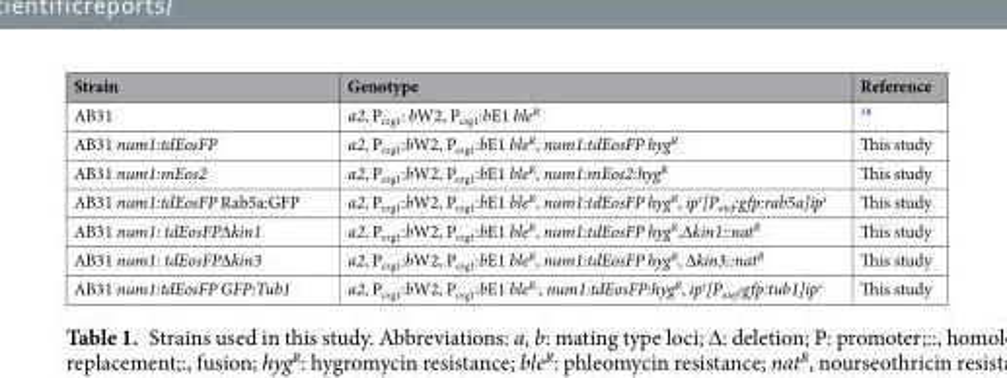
<table><thead><tr><td>Strain</td><td>Genotype</td><td>Reference</td></tr></thead><tbody><tr><td>AB31</td><td>a2, P<sub>crg1</sub>: bW2, P<sub>crg1</sub>:bE1 ble<sup>R</sup></td><td><sup>38</sup></td></tr><tr><td>AB31 num1:tdEosFP</td><td>a2, P<sub>crg1</sub>:bW2, P<sub>crg1</sub>:bE1 ble<sup>R</sup>, num1:tdEosFP hyg<sup>R</sup></td><td>This study</td></tr><tr><td>AB31 num1:mEos2</td><td>a2, P<sub>crg1</sub>:bW2, P<sub>crg1</sub>:bE1 ble<sup>R</sup>, num1:mEos2:hyg<sup>R</sup></td><td>This study</td></tr><tr><td>AB31 num1:tdEosFP Rab5a:GFP</td><td>a2, P<sub>crg1</sub>:bW2, P<sub>crg1</sub>:bE1 ble<sup>R</sup>, num1:tdEosFP hyg<sup>R</sup>, ip<sup>r</sup>[P<sub>otef</sub>:gfp:rab5a]ip<sup>s</sup></td><td>This study</td></tr><tr><td>AB31 num1: tdEosFP∆kin1</td><td>a2, P<sub>crg1</sub>:bW2, P<sub>crg1</sub>:bE1 ble<sup>R</sup>, num1:tdEosFP hyg<sup>R</sup>,∆kin1::nat<sup>R</sup></td><td>This study</td></tr><tr><td>AB31 num1: tdEosFP∆kin3</td><td>a2, P<sub>crg1</sub>:bW2, P<sub>crg1</sub>:bE1 ble<sup>R</sup>, num1:tdEosFP hyg<sup>R</sup>, ∆kin3::nat<sup>R</sup></td><td>This study</td></tr><tr><td>AB31 num1:tdEosFP GFP:Tub1</td><td>a2, P<sub>crg1</sub>:bW2, P<sub>crg1</sub>:bE1 ble<sup>R,</sup>, num1:tdEosFP:hyg<sup>R</sup>, ip<sup>r</sup>[P<sub>otef</sub>:gfp:tub1]ip<sup>s</sup></td><td>This study</td></tr></tbody></table>